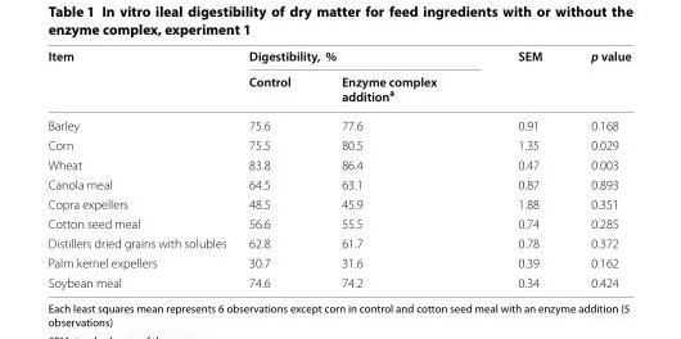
<table><thead><tr><td rowspan="2">Item</td><td colspan="2">Digestibility, %</td><td rowspan="2">SEM</td><td rowspan="2">p value</td></tr><tr><td>Control</td><td>Enzyme complex addition<sup>a</sup></td></tr></thead><tbody><tr><td>Barley</td><td>75.6</td><td>77.6</td><td>0.91</td><td>0.168</td></tr><tr><td>Corn</td><td>75.5</td><td>80.5</td><td>1.35</td><td>0.029</td></tr><tr><td>Wheat</td><td>83.8</td><td>86.4</td><td>0.47</td><td>0.003</td></tr><tr><td>Canola meal</td><td>64.5</td><td>63.1</td><td>0.87</td><td>0.893</td></tr><tr><td>Copra expellers</td><td>48.5</td><td>45.9</td><td>1.88</td><td>0.351</td></tr><tr><td>Cotton seed meal</td><td>56.6</td><td>55.5</td><td>0.74</td><td>0.285</td></tr><tr><td>Distillers dried grains with solubles</td><td>62.8</td><td>61.7</td><td>0.78</td><td>0.372</td></tr><tr><td>Palm kernel expellers</td><td>30.7</td><td>31.6</td><td>0.39</td><td>0.162</td></tr><tr><td>Soybean meal</td><td>74.6</td><td>74.2</td><td>0.34</td><td>0.424</td></tr></tbody></table>